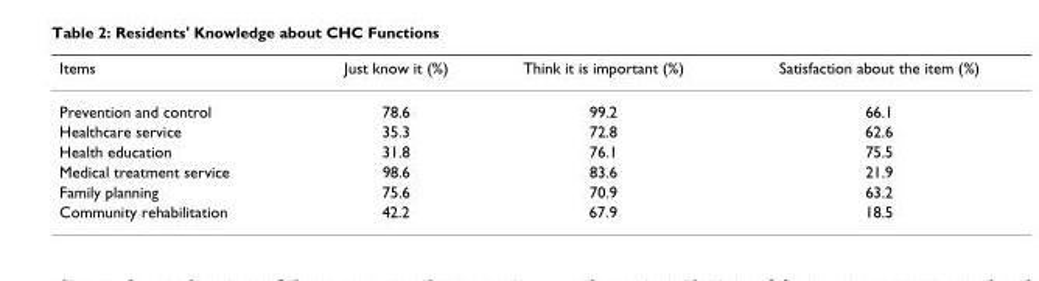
<table><thead><tr><td>Items</td><td>Just know it (%)</td><td>Think it is important (%)</td><td>Satisfaction about the item (%)</td></tr></thead><tbody><tr><td>Prevention and control</td><td>78.6</td><td>99.2</td><td>66.1</td></tr><tr><td>Healthcare service</td><td>35.3</td><td>72.8</td><td>62.6</td></tr><tr><td>Health education</td><td>31.8</td><td>76.1</td><td>75.5</td></tr><tr><td>Medical treatment service</td><td>98.6</td><td>83.6</td><td>21.9</td></tr><tr><td>Family planning</td><td>75.6</td><td>70.9</td><td>63.2</td></tr><tr><td>Community rehabilitation</td><td>42.2</td><td>67.9</td><td>18.5</td></tr></tbody></table>